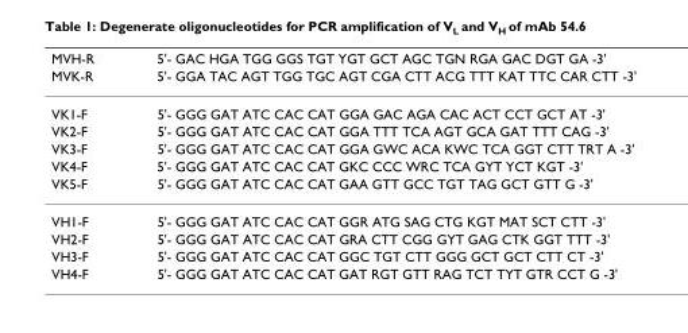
<table><thead><tr><td rowspan="2">MVH-R MVK-R</td><td rowspan="2">5&#x27;- GAC HGA TGG GGS TGT YGT GCT AGC TGN RGA GAC DGT GA -3&#x27; 5&#x27;- GGA TAC AGT TGG TGC AGT CGA CTT ACG TTT KAT TTC CAR CTT -3&#x27;</td></tr><tr></tr></thead><tbody><tr><td>VK1-F</td><td>5&#x27;- GGG GAT ATC CAC CAT GGA GAC AGA CAC ACT CCT GCT AT -3&#x27;</td></tr><tr><td>VK2-F</td><td>5&#x27;- GGG GAT ATC CAC CAT GGA TTT TCA AGT GCA GAT TTT CAG -3&#x27;</td></tr><tr><td>VK3-F</td><td>5&#x27;- GGG GAT ATC CAC CAT GGA GWC ACA KWC TCA GGT CTT TRT A -3&#x27;</td></tr><tr><td>VK4-F</td><td>5&#x27;- GGG GAT ATC CAC CAT GKC CCC WRC TCA GYT YCT KGT -3&#x27;</td></tr><tr><td>VK5-F</td><td>5&#x27;- GGG GAT ATC CAC CAT GAA GTT GCC TGT TAG GCT GTT G -3&#x27;</td></tr><tr><td>VH1-F</td><td>5&#x27;- GGG GAT ATC CAC CAT GGR ATG SAG CTG KGT MAT SCT CTT -3&#x27;</td></tr><tr><td>VH2-F</td><td>5&#x27;- GGG GAT ATC CAC CAT GRA CTT CGG GYT GAG CTK GGT TTT -3&#x27;</td></tr><tr><td>VH3-F</td><td>5&#x27;- GGG GAT ATC CAC CAT GGC TGT CTT GGG GCT GCT CTT CT -3&#x27;</td></tr><tr><td>VH4-F</td><td>5&#x27;- GGG GAT ATC CAC CAT GAT RGT GTT RAG TCT TYT GTR CCT G -3&#x27;</td></tr></tbody></table>